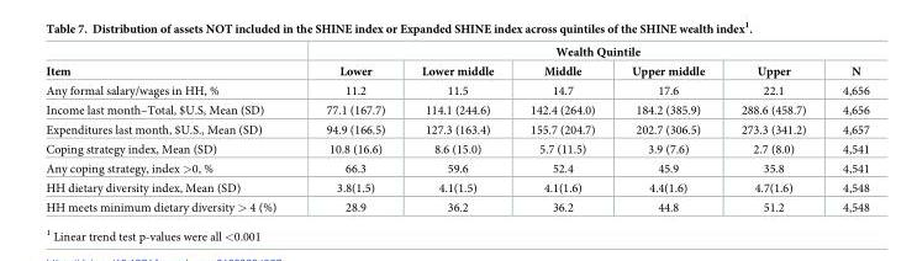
<table><thead><tr><td rowspan="2">Item</td><td colspan="6">Wealth Quintile</td></tr><tr><td>Lower</td><td>Lower middle</td><td>Middle</td><td>Upper middle</td><td>Upper</td><td>N</td></tr></thead><tbody><tr><td>Any formal salary/wages in HH, %</td><td>11.2</td><td>11.5</td><td>14.7</td><td>17.6</td><td>22.1</td><td>4,656</td></tr><tr><td>Income last month–Total, $U.S, Mean (SD)</td><td>77.1 (167.7)</td><td>114.1 (244.6)</td><td>142.4 (264.0)</td><td>184.2 (385.9)</td><td>288.6 (458.7)</td><td>4,656</td></tr><tr><td>Expenditures last month, $U.S., Mean (SD)</td><td>94.9 (166.5)</td><td>127.3 (163.4)</td><td>155.7 (204.7)</td><td>202.7 (306.5)</td><td>273.3 (341.2)</td><td>4,657</td></tr><tr><td>Coping strategy index, Mean (SD)</td><td>10.8 (16.6)</td><td>8.6 (15.0)</td><td>5.7 (11.5)</td><td>3.9 (7.6)</td><td>2.7 (8.0)</td><td>4,541</td></tr><tr><td>Any coping strategy, index &gt;0, %</td><td>66.3</td><td>59.6</td><td>52.4</td><td>45.9</td><td>35.8</td><td>4,541</td></tr><tr><td>HH dietary diversity index, Mean (SD)</td><td>3.8(1.5)</td><td>4.1(1.5)</td><td>4.1(1.6)</td><td>4.4(1.6)</td><td>4.7(1.6)</td><td>4,548</td></tr><tr><td>HH meets minimum dietary diversity &gt; 4 (%)</td><td>28.9</td><td>36.2</td><td>36.2</td><td>44.8</td><td>51.2</td><td>4,548</td></tr></tbody></table>